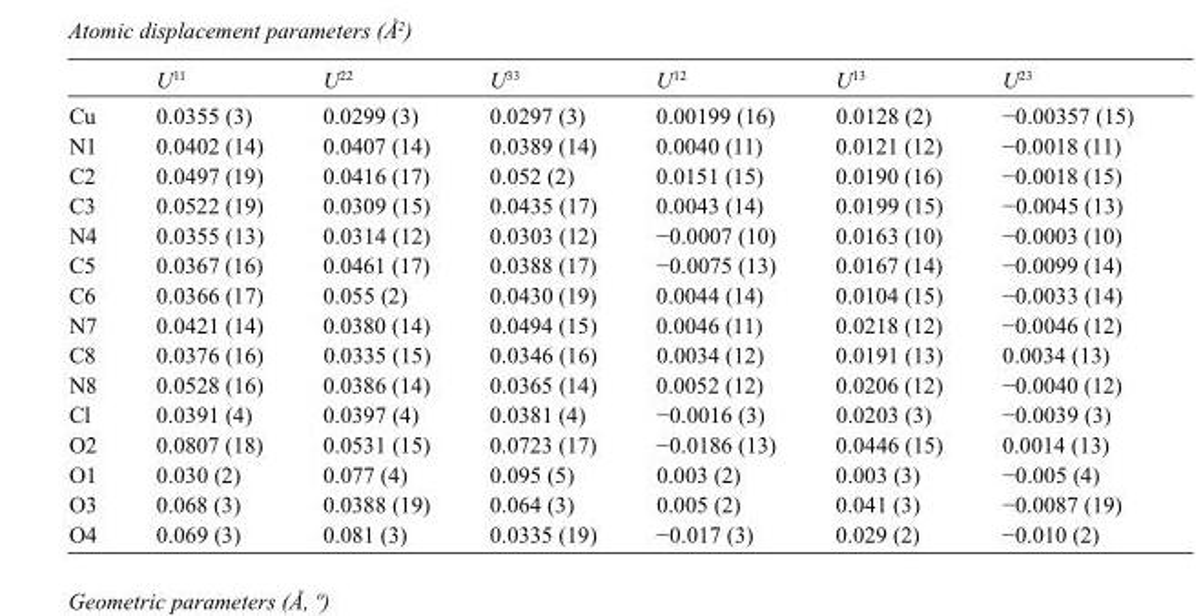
<table><thead><tr><td></td><td>U<sup>11</sup></td><td>U<sup>22</sup></td><td>U<sup>33</sup></td><td>U<sup>12</sup></td><td>U<sup>13</sup></td><td>U<sup>23</sup></td></tr></thead><tbody><tr><td>Cu</td><td>0.0355 (3)</td><td>0.0299 (3)</td><td>0.0297 (3)</td><td>0.00199 (16)</td><td>0.0128 (2)</td><td>−0.00357 (15)</td></tr><tr><td>N1</td><td>0.0402 (14)</td><td>0.0407 (14)</td><td>0.0389 (14)</td><td>0.0040 (11)</td><td>0.0121 (12)</td><td>−0.0018 (11)</td></tr><tr><td>C2</td><td>0.0497 (19)</td><td>0.0416 (17)</td><td>0.052 (2)</td><td>0.0151 (15)</td><td>0.0190 (16)</td><td>−0.0018 (15)</td></tr><tr><td>C3</td><td>0.0522 (19)</td><td>0.0309 (15)</td><td>0.0435 (17)</td><td>0.0043 (14)</td><td>0.0199 (15)</td><td>−0.0045 (13)</td></tr><tr><td>N4</td><td>0.0355 (13)</td><td>0.0314 (12)</td><td>0.0303 (12)</td><td>−0.0007 (10)</td><td>0.0163 (10)</td><td>−0.0003 (10)</td></tr><tr><td>C5</td><td>0.0367 (16)</td><td>0.0461 (17)</td><td>0.0388 (17)</td><td>−0.0075 (13)</td><td>0.0167 (14)</td><td>−0.0099 (14)</td></tr><tr><td>C6</td><td>0.0366 (17)</td><td>0.055 (2)</td><td>0.0430 (19)</td><td>0.0044 (14)</td><td>0.0104 (15)</td><td>−0.0033 (14)</td></tr><tr><td>N7</td><td>0.0421 (14)</td><td>0.0380 (14)</td><td>0.0494 (15)</td><td>0.0046 (11)</td><td>0.0218 (12)</td><td>−0.0046 (12)</td></tr><tr><td>C8</td><td>0.0376 (16)</td><td>0.0335 (15)</td><td>0.0346 (16)</td><td>0.0034 (12)</td><td>0.0191 (13)</td><td>0.0034 (13)</td></tr><tr><td>N8</td><td>0.0528 (16)</td><td>0.0386 (14)</td><td>0.0365 (14)</td><td>0.0052 (12)</td><td>0.0206 (12)</td><td>−0.0040 (12)</td></tr><tr><td>Cl</td><td>0.0391 (4)</td><td>0.0397 (4)</td><td>0.0381 (4)</td><td>−0.0016 (3)</td><td>0.0203 (3)</td><td>−0.0039 (3)</td></tr><tr><td>O2</td><td>0.0807 (18)</td><td>0.0531 (15)</td><td>0.0723 (17)</td><td>−0.0186 (13)</td><td>0.0446 (15)</td><td>0.0014 (13)</td></tr><tr><td>O1</td><td>0.030 (2)</td><td>0.077 (4)</td><td>0.095 (5)</td><td>0.003 (2)</td><td>0.003 (3)</td><td>−0.005 (4)</td></tr><tr><td>O3</td><td>0.068 (3)</td><td>0.0388 (19)</td><td>0.064 (3)</td><td>0.005 (2)</td><td>0.041 (3)</td><td>−0.0087 (19)</td></tr><tr><td>O4</td><td>0.069 (3)</td><td>0.081 (3)</td><td>0.0335 (19)</td><td>−0.017 (3)</td><td>0.029 (2)</td><td>−0.010 (2)</td></tr></tbody></table>